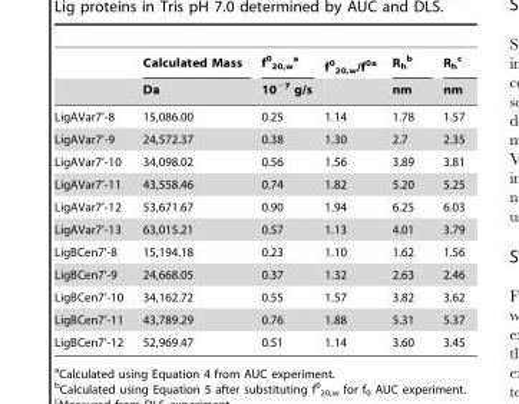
<table><thead><tr><td rowspan="2"></td><td rowspan="2">Calculated Mass Da</td><td rowspan="2">f<sup>0</sup> <sub>20,w</sub> a 10<sup>−7</sup> g/s</td><td rowspan="2">f<sup>0</sup> <sub>20,w</sub>/f<sup>0a</sup></td><td rowspan="2">R<sub>h</sub> b nm</td><td rowspan="2">R<sub>h</sub> c nm</td></tr><tr></tr></thead><tbody><tr><td>LigAVar7’-8</td><td>15,086.00</td><td>0.25</td><td>1.14</td><td>1.78</td><td>1.57</td></tr><tr><td>LigAVar7’-9</td><td>24,572.37</td><td>0.38</td><td>1.30</td><td>2.7</td><td>2.35</td></tr><tr><td>LigAVar7’-10</td><td>34,098.02</td><td>0.56</td><td>1.56</td><td>3.89</td><td>3.81</td></tr><tr><td>LigAVar7’-11</td><td>43,558.46</td><td>0.74</td><td>1.82</td><td>5.20</td><td>5.25</td></tr><tr><td>LigAVar7’-12</td><td>53,671.67</td><td>0.90</td><td>1.94</td><td>6.25</td><td>6.03</td></tr><tr><td>LigAVar7’-13</td><td>63,015.21</td><td>0.57</td><td>1.13</td><td>4.01</td><td>3.79</td></tr><tr><td>LigBCen7’-8</td><td>15,194.18</td><td>0.23</td><td>1.10</td><td>1.62</td><td>1.56</td></tr><tr><td>LigBCen7’-9</td><td>24,668.05</td><td>0.37</td><td>1.32</td><td>2.63</td><td>2.46</td></tr><tr><td>LigBCen7’-10</td><td>34,162.72</td><td>0.55</td><td>1.57</td><td>3.82</td><td>3.62</td></tr><tr><td>LigBCen7’-11</td><td>43,789.29</td><td>0.76</td><td>1.88</td><td>5.31</td><td>5.37</td></tr><tr><td>LigBCen7’-12</td><td>52,969.47</td><td>0.51</td><td>1.14</td><td>3.60</td><td>3.45</td></tr></tbody></table>